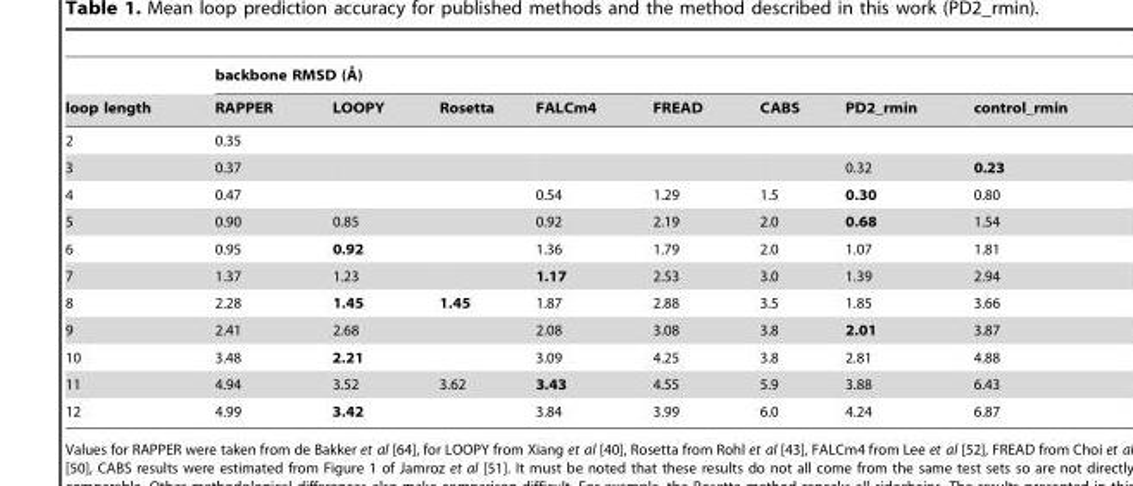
<table><thead><tr><td rowspan="2">loop length</td><td colspan="8">backbone RMSD (A˚ )</td></tr><tr><td>RAPPER</td><td>LOOPY</td><td>Rosetta</td><td>FALCm4</td><td>FREAD</td><td>CABS</td><td>PD2_rmin</td><td>control_rmin</td></tr></thead><tbody><tr><td>2</td><td>0.35</td><td></td><td></td><td></td><td></td><td></td><td></td><td></td></tr><tr><td>3</td><td>0.37</td><td></td><td></td><td></td><td></td><td></td><td>0.32</td><td>0.23</td></tr><tr><td>4</td><td>0.47</td><td></td><td></td><td>0.54</td><td>1.29</td><td>1.5</td><td>0.30</td><td>0.80</td></tr><tr><td>5</td><td>0.90</td><td>0.85</td><td></td><td>0.92</td><td>2.19</td><td>2.0</td><td>0.68</td><td>1.54</td></tr><tr><td>6</td><td>0.95</td><td>0.92</td><td></td><td>1.36</td><td>1.79</td><td>2.0</td><td>1.07</td><td>1.81</td></tr><tr><td>7</td><td>1.37</td><td>1.23</td><td></td><td>1.17</td><td>2.53</td><td>3.0</td><td>1.39</td><td>2.94</td></tr><tr><td>8</td><td>2.28</td><td>1.45</td><td>1.45</td><td>1.87</td><td>2.88</td><td>3.5</td><td>1.85</td><td>3.66</td></tr><tr><td>9</td><td>2.41</td><td>2.68</td><td></td><td>2.08</td><td>3.08</td><td>3.8</td><td>2.01</td><td>3.87</td></tr><tr><td>10</td><td>3.48</td><td>2.21</td><td></td><td>3.09</td><td>4.25</td><td>3.8</td><td>2.81</td><td>4.88</td></tr><tr><td>11</td><td>4.94</td><td>3.52</td><td>3.62</td><td>3.43</td><td>4.55</td><td>5.9</td><td>3.88</td><td>6.43</td></tr><tr><td>12</td><td>4.99</td><td>3.42</td><td></td><td>3.84</td><td>3.99</td><td>6.0</td><td>4.24</td><td>6.87</td></tr></tbody></table>